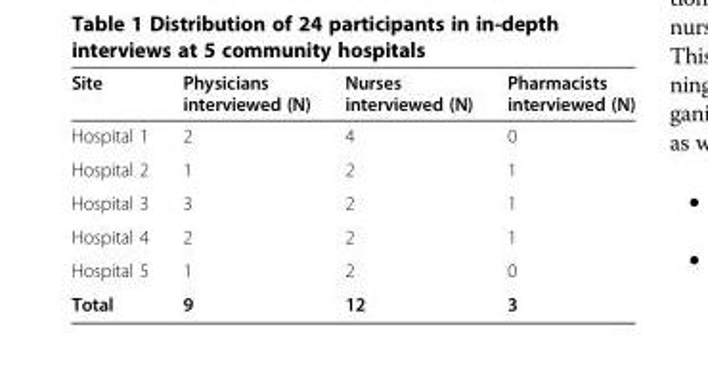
<table><thead><tr><td>Site</td><td>Physicians interviewed (N)</td><td>Nurses interviewed (N)</td><td>Pharmacists interviewed (N)</td></tr></thead><tbody><tr><td>Hospital 1</td><td>2</td><td>4</td><td>0</td></tr><tr><td>Hospital 2</td><td>1</td><td>2</td><td>1</td></tr><tr><td>Hospital 3</td><td>3</td><td>2</td><td>1</td></tr><tr><td>Hospital 4</td><td>2</td><td>2</td><td>1</td></tr><tr><td>Hospital 5</td><td>1</td><td>2</td><td>0</td></tr><tr><td>Total</td><td>9</td><td>12</td><td>3</td></tr></tbody></table>